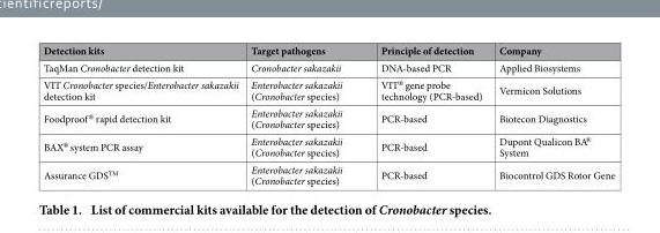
<table><thead><tr><td>Detection kits</td><td>Target pathogens</td><td>Principle of detection</td><td>Company</td></tr></thead><tbody><tr><td>TaqMan Cronobacter detection kit</td><td>Cronobacter sakazakii</td><td>DNA-based PCR</td><td>Applied Biosystems</td></tr><tr><td>VIT Cronobacter species/Enterobacter sakazakii detection kit</td><td>Enterobacter sakazakii (Cronobacter species)</td><td>VIT<sup>Ⓡ</sup> gene probe technology (PCR-based)</td><td>Vermicon Solutions</td></tr><tr><td>Foodproof <sup>Ⓡ</sup> rapid detection kit</td><td>Enterobacter sakazakii (Cronobacter species)</td><td>PCR-based</td><td>Biotecon Diagnostics</td></tr><tr><td>BAX<sup>Ⓡ</sup> system PCR assay</td><td>Enterobacter sakazakii (Cronobacter species)</td><td>PCR-based</td><td>Dupont Qualicon BA<sup>Ⓡ</sup> System</td></tr><tr><td>Assurance GDS<sup>TM</sup></td><td>Enterobacter sakazakii (Cronobacter species)</td><td>PCR-based</td><td>Biocontrol GDS Rotor Gene</td></tr></tbody></table>